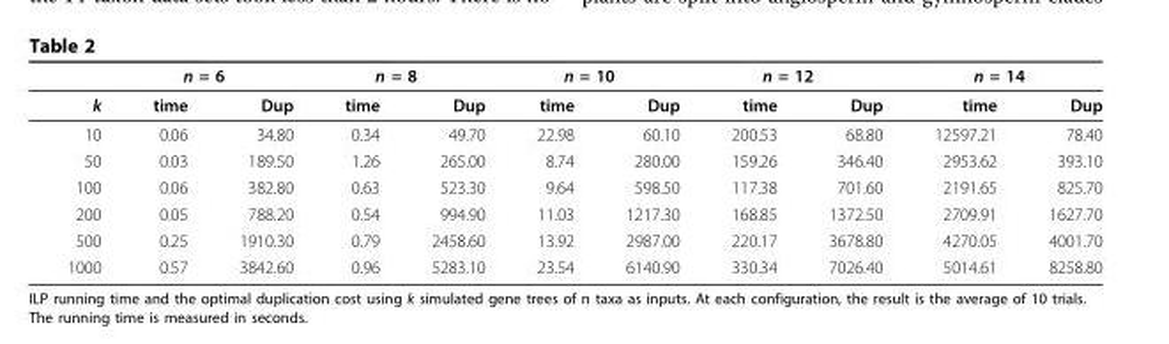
<table><thead><tr><td rowspan="2">k</td><td colspan="2">n = 6</td><td colspan="2">n = 8</td><td colspan="2">n = 10</td><td colspan="2">n = 12</td><td colspan="2">n = 14</td></tr><tr><td>time</td><td>Dup</td><td>time</td><td>Dup</td><td>time</td><td>Dup</td><td>time</td><td>Dup</td><td>time</td><td>Dup</td></tr></thead><tbody><tr><td>10</td><td>0.06</td><td>34.80</td><td>0.34</td><td>49.70</td><td>22.98</td><td>60.10</td><td>200.53</td><td>68.80</td><td>12597.21</td><td>78.40</td></tr><tr><td>50</td><td>0.03</td><td>189.50</td><td>1.26</td><td>265.00</td><td>8.74</td><td>280.00</td><td>159.26</td><td>346.40</td><td>2953.62</td><td>393.10</td></tr><tr><td>100</td><td>0.06</td><td>382.80</td><td>0.63</td><td>523.30</td><td>9.64</td><td>598.50</td><td>117.38</td><td>701.60</td><td>2191.65</td><td>825.70</td></tr><tr><td>200</td><td>0.05</td><td>788.20</td><td>0.54</td><td>994.90</td><td>11.03</td><td>1217.30</td><td>168.85</td><td>1372.50</td><td>2709.91</td><td>1627.70</td></tr><tr><td>500</td><td>0.25</td><td>1910.30</td><td>0.79</td><td>2458.60</td><td>13.92</td><td>2987.00</td><td>220.17</td><td>3678.80</td><td>4270.05</td><td>4001.70</td></tr><tr><td>1000</td><td>0.57</td><td>3842.60</td><td>0.96</td><td>5283.10</td><td>23.54</td><td>6140.90</td><td>330.34</td><td>7026.40</td><td>5014.61</td><td>8258.80</td></tr></tbody></table>